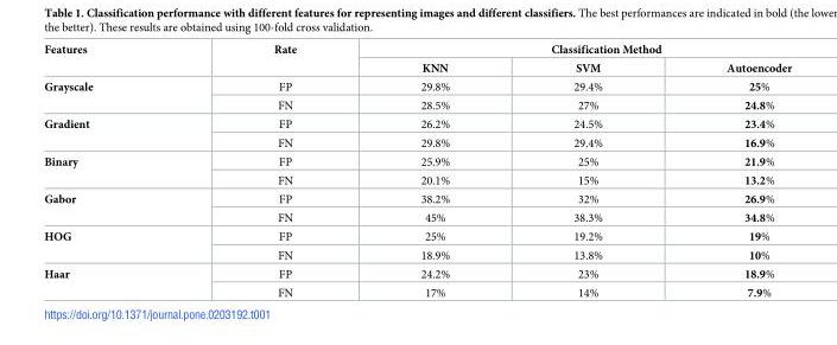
<table><thead><tr><td rowspan="2">Features</td><td rowspan="2">Rate</td><td colspan="3">Classification Method</td></tr><tr><td>KNN</td><td>SVM</td><td>Autoencoder</td></tr></thead><tbody><tr><td rowspan="2">Grayscale</td><td>FP</td><td>29.8%</td><td>29.4%</td><td>25%</td></tr><tr><td>FN</td><td>28.5%</td><td>27%</td><td>24.8%</td></tr><tr><td rowspan="2">Gradient</td><td>FP</td><td>26.2%</td><td>24.5%</td><td>23.4%</td></tr><tr><td>FN</td><td>29.8%</td><td>29.4%</td><td>16.9%</td></tr><tr><td rowspan="2">Binary</td><td>FP</td><td>25.9%</td><td>25%</td><td>21.9%</td></tr><tr><td>FN</td><td>20.1%</td><td>15%</td><td>13.2%</td></tr><tr><td rowspan="2">Gabor</td><td>FP</td><td>38.2%</td><td>32%</td><td>26.9%</td></tr><tr><td>FN</td><td>45%</td><td>38.3%</td><td>34.8%</td></tr><tr><td rowspan="2">HOG</td><td>FP</td><td>25%</td><td>19.2%</td><td>19%</td></tr><tr><td>FN</td><td>18.9%</td><td>13.8%</td><td>10%</td></tr><tr><td rowspan="2">Haar</td><td>FP</td><td>24.2%</td><td>23%</td><td>18.9%</td></tr><tr><td>FN</td><td>17%</td><td>14%</td><td>7.9%</td></tr></tbody></table>